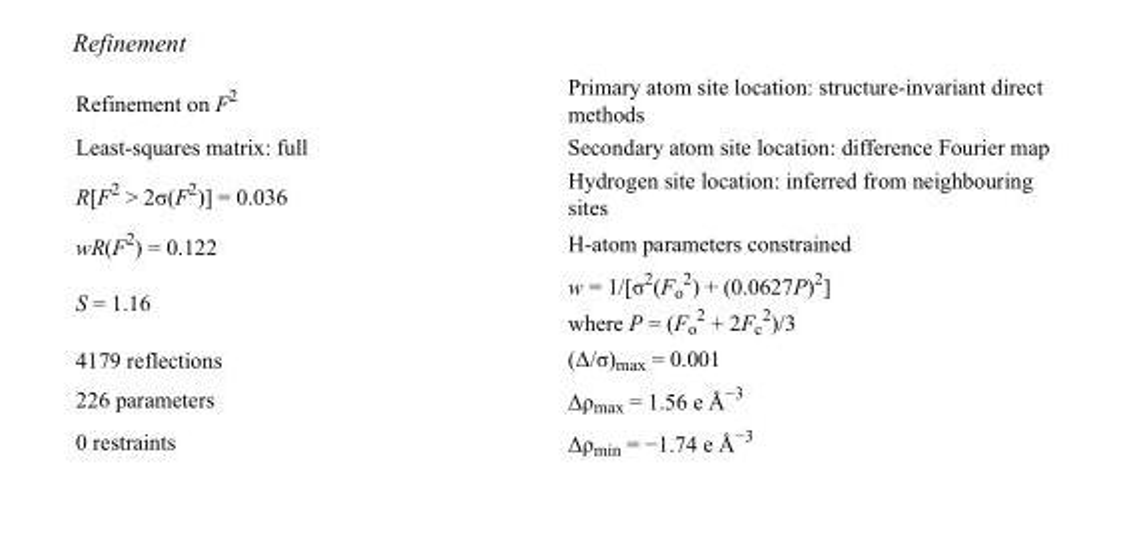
<table><tbody><tr><td>Refinement on F<sup>2</sup></td><td>Primary atom site location: structure-invariant direct methods</td></tr><tr><td>Least-squares matrix: full</td><td>Secondary atom site location: difference Fourier map</td></tr><tr><td>R[F<sup>2</sup> &gt; 2σ(F<sup>2</sup>)] = 0.036</td><td>Hydrogen site location: inferred from neighbouring sites</td></tr><tr><td>wR(F<sup>2</sup>) = 0.122</td><td>H-atom parameters constrained</td></tr><tr><td>S = 1.16</td><td>w = 1/[σ<sup>2</sup>(F<sub>o</sub> <sup>2</sup>) + (0.0627P)<sup>2</sup>] where P = (F<sub>o</sub> <sup>2</sup> + 2F<sub>c</sub> <sup>2</sup>)/3</td></tr><tr><td>4179 reflections</td><td>(Δ/σ)<sub>max</sub> = 0.001</td></tr><tr><td>226 parameters</td><td>Δρ<sub>max</sub> = 1.56 e Å<sup>−3</sup></td></tr><tr><td>0 restraints</td><td>Δρ<sub>min</sub> = −1.74 e Å<sup>−3</sup></td></tr></tbody></table>